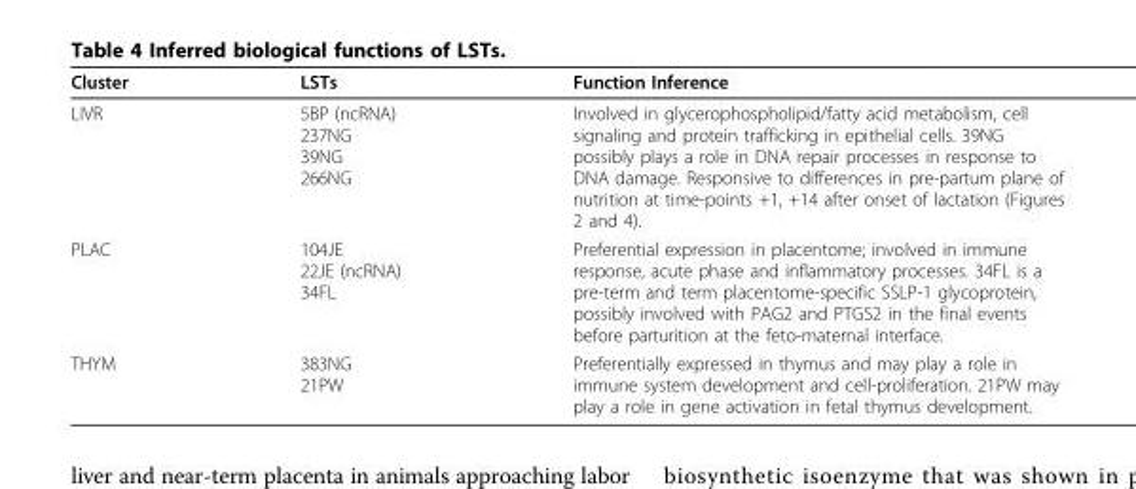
<table><thead><tr><td>Cluster</td><td>LSTs</td><td>Function Inference</td></tr></thead><tbody><tr><td>LIVR</td><td>5BP (ncRNA) 237NG 39NG 266NG</td><td>Involved in glycerophospholipid/fatty acid metabolism, cell signaling and protein trafficking in epithelial cells. 39NG possibly plays a role in DNA repair processes in response to DNA damage. Responsive to differences in pre-partum plane of nutrition at time-points +1, +14 after onset of lactation (Figures 2 and 4).</td></tr><tr><td>PLAC</td><td>104JE 22JE (ncRNA) 34FL</td><td>Preferential expression in placentome; involved in immune response, acute phase and inflammatory processes. 34FL is a pre-term and term placentome-specific SSLP-1 glycoprotein, possibly involved with PAG2 and PTGS2 in the final events before parturition at the feto-maternal interface.</td></tr><tr><td>THYM</td><td>383NG 21PW</td><td>Preferentially expressed in thymus and may play a role in immune system development and cell-proliferation. 21PW may play a role in gene activation in fetal thymus development.</td></tr></tbody></table>